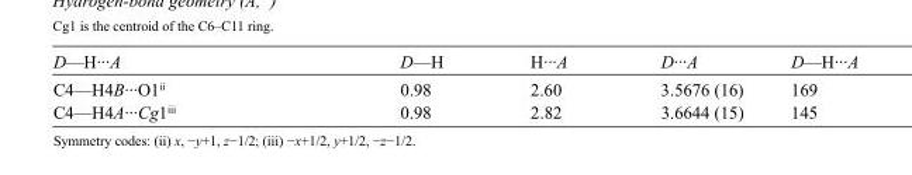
<table><tbody><tr><td>D—H···A</td><td>D—H</td><td>H···A</td><td>D···A</td><td>D—H···A</td></tr><tr><td>C4—H4B···O1<sup>ii</sup></td><td>0.98</td><td>2.60</td><td>3.5676 (16)</td><td>169</td></tr><tr><td>C4—H4A···Cg1<sup>iii</sup></td><td>0.98</td><td>2.82</td><td>3.6644 (15)</td><td>145</td></tr></tbody></table>